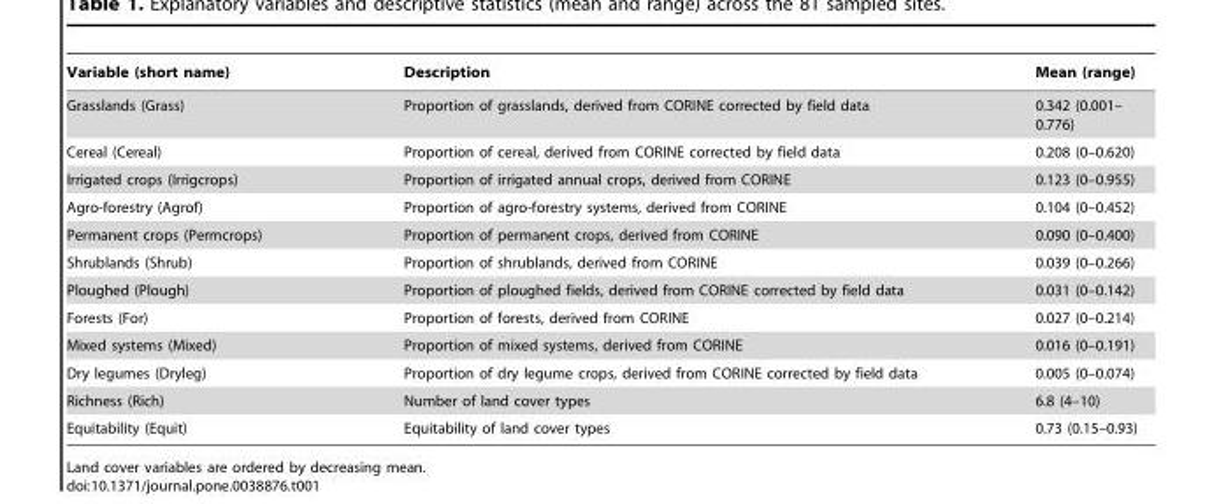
<table><thead><tr><td>Variable (short name)</td><td>Description</td><td>Mean (range)</td></tr></thead><tbody><tr><td>Grasslands (Grass)</td><td>Proportion of grasslands, derived from CORINE corrected by field data</td><td>0.342 (0.001– 0.776)</td></tr><tr><td>Cereal (Cereal)</td><td>Proportion of cereal, derived from CORINE corrected by field data</td><td>0.208 (0–0.620)</td></tr><tr><td>Irrigated crops (Irrigcrops)</td><td>Proportion of irrigated annual crops, derived from CORINE</td><td>0.123 (0–0.955)</td></tr><tr><td>Agro-forestry (Agrof)</td><td>Proportion of agro-forestry systems, derived from CORINE</td><td>0.104 (0–0.452)</td></tr><tr><td>Permanent crops (Permcrops)</td><td>Proportion of permanent crops, derived from CORINE</td><td>0.090 (0–0.400)</td></tr><tr><td>Shrublands (Shrub)</td><td>Proportion of shrublands, derived from CORINE</td><td>0.039 (0–0.266)</td></tr><tr><td>Ploughed (Plough)</td><td>Proportion of ploughed fields, derived from CORINE corrected by field data</td><td>0.031 (0–0.142)</td></tr><tr><td>Forests (For)</td><td>Proportion of forests, derived from CORINE</td><td>0.027 (0–0.214)</td></tr><tr><td>Mixed systems (Mixed)</td><td>Proportion of mixed systems, derived from CORINE</td><td>0.016 (0–0.191)</td></tr><tr><td>Dry legumes (Dryleg)</td><td>Proportion of dry legume crops, derived from CORINE corrected by field data</td><td>0.005 (0–0.074)</td></tr><tr><td>Richness (Rich)</td><td>Number of land cover types</td><td>6.8 (4–10)</td></tr><tr><td>Equitability (Equit)</td><td>Equitability of land cover types</td><td>0.73 (0.15–0.93)</td></tr></tbody></table>